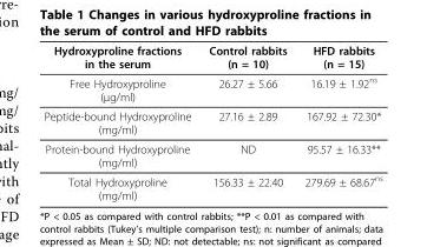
<table><thead><tr><td>Hydroxyproline fractions in the serum</td><td>Control rabbits (n = 10)</td><td>HFD rabbits (n = 15)</td></tr></thead><tbody><tr><td>Free Hydroxyproline (μg/ml)</td><td>26.27 ± 5.66</td><td>16.19 ± 1.92<sup>ns</sup></td></tr><tr><td>Peptide-bound Hydroxyproline (mg/ml)</td><td>27.16 ± 2.89</td><td>167.92 ± 72.30*</td></tr><tr><td>Protein-bound Hydroxyproline (mg/ml)</td><td>ND</td><td>95.57 ± 16.33**</td></tr><tr><td>Total Hydroxyproline (mg/ml)</td><td>156.33 ± 22.40</td><td>279.69 ± 68.67<sup>ns</sup></td></tr></tbody></table>